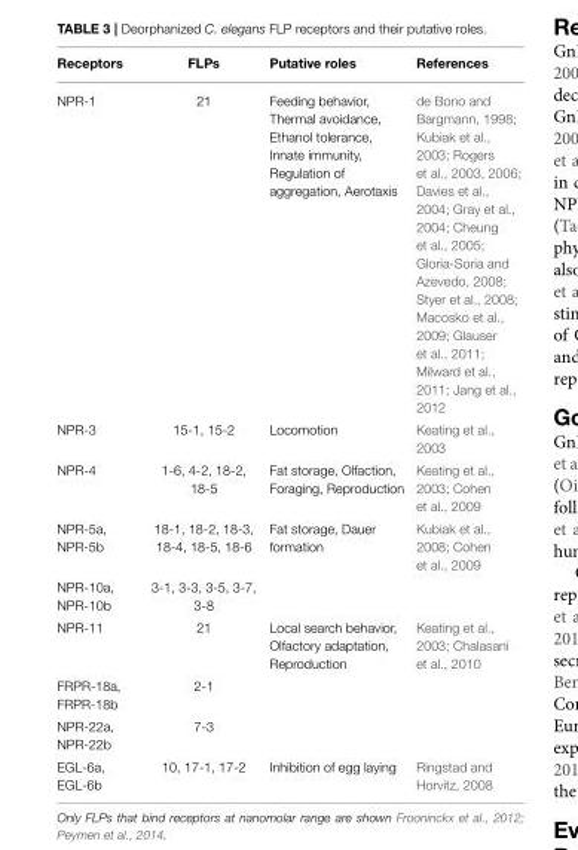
<table><thead><tr><td>Receptors</td><td>FLPs</td><td>Putative roles</td><td>References</td></tr></thead><tbody><tr><td>NPR-1</td><td>21</td><td>Feeding behavior, Thermal avoidance, Ethanol tolerance, Innate immunity, Regulation of aggregation, Aerotaxis</td><td>de Bono and Bargmann, 1998; Kubiak et al., 2003; Rogers et al., 2003, 2006; Davies et al., 2004; Gray et al., 2004; Cheung et al., 2005; Gloria-Soria and Azevedo, 2008; Styer et al., 2008; Macosko et al., 2009; Glauser et al., 2011; Milward et al., 2011; Jang et al., 2012</td></tr><tr><td>NPR-3</td><td>15-1, 15-2</td><td>Locomotion</td><td>Keating et al., 2003</td></tr><tr><td>NPR-4</td><td>1-6, 4-2, 18-2, 18-5</td><td>Fat storage, Olfaction, Foraging, Reproduction</td><td>Keating et al., 2003; Cohen et al., 2009</td></tr><tr><td>NPR-5a, NPR-5b</td><td>18-1, 18-2, 18-3, 18-4, 18-5, 18-6</td><td>Fat storage, Dauer formation</td><td>Kubiak et al., 2008; Cohen et al., 2009</td></tr><tr><td>NPR-10a, NPR-10b</td><td>3-1, 3-3, 3-5, 3-7, 3-8</td><td></td><td></td></tr><tr><td>NPR-11</td><td>21</td><td>Local search behavior, Olfactory adaptation, Reproduction</td><td>Keating et al., 2003; Chalasani et al., 2010</td></tr><tr><td>FRPR-18a, FRPR-18b</td><td>2-1</td><td></td><td></td></tr><tr><td>NPR-22a, NPR-22b</td><td>7-3</td><td></td><td></td></tr><tr><td>EGL-6a, EGL-6b</td><td>10, 17-1, 17-2</td><td>Inhibition of egg laying</td><td>Ringstad and Horvitz, 2008</td></tr></tbody></table>